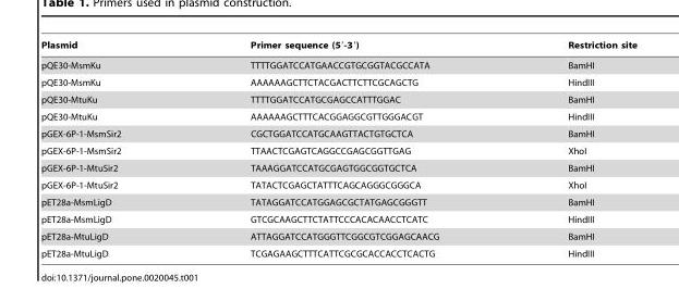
<table><thead><tr><td>Plasmid</td><td>Primer sequence (5′-3′)</td><td>Restriction site</td></tr></thead><tbody><tr><td>pQE30-MsmKu</td><td>TTTTGGATCCATGAACCGTGCGGTACGCCATA</td><td>BamHI</td></tr><tr><td>pQE30-MsmKu</td><td>AAAAAAGCTTCTACGACTTCTTCGCAGCTG</td><td>HindIII</td></tr><tr><td>pQE30-MtuKu</td><td>TTTTGGATCCATGCGAGCCATTTGGAC</td><td>BamHI</td></tr><tr><td>pQE30-MtuKu</td><td>AAAAAAGCTTTCACGGAGGCGTTGGGACGT</td><td>HindIII</td></tr><tr><td>pGEX-6P-1-MsmSir2</td><td>CGCTGGATCCATGCAAGTTACTGTGCTCA</td><td>BamHI</td></tr><tr><td>pGEX-6P-1-MsmSir2</td><td>TTAACTCGAGTCAGGCCGAGCGGTTGAG</td><td>XhoI</td></tr><tr><td>pGEX-6P-1-MtuSir2</td><td>TAAAGGATCCATGCGAGTGGCGGTGCTCA</td><td>BamHI</td></tr><tr><td>pGEX-6P-1-MtuSir2</td><td>TATACTCGAGCTATTTCAGCAGGGCGGGCA</td><td>XhoI</td></tr><tr><td>pET28a-MsmLigD</td><td>TATAGGATCCATGGAGCGCTATGAGCGGGTT</td><td>BamHI</td></tr><tr><td>pET28a-MsmLigD</td><td>GTCGCAAGCTTCTATTCCCACACAACCTCATC</td><td>HindIII</td></tr><tr><td>pET28a-MtuLigD</td><td>ATTAGGATCCATGGGTTCGGCGTCGGAGCAACG</td><td>BamHI</td></tr><tr><td>pET28a-MtuLigD</td><td>TCGAGAAGCTTTCATTCGCGCACCACCTCACTG</td><td>HindIII</td></tr></tbody></table>